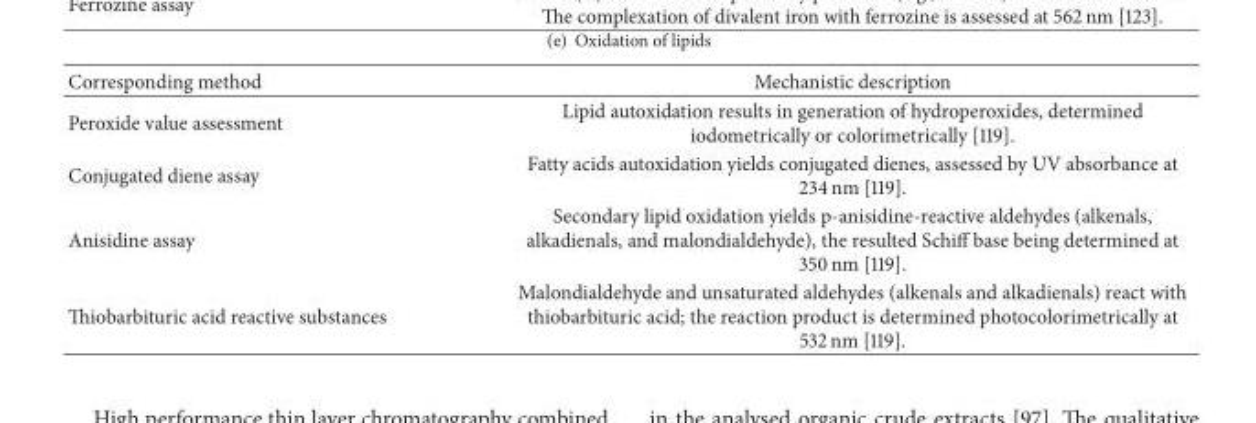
<table><thead><tr><td>Corresponding method</td><td>Mechanistic description</td></tr></thead><tbody><tr><td>Peroxide value assessment</td><td>Lipid autoxidation results in generation of hydroperoxides, determined iodometrically or colorimetrically [119].</td></tr><tr><td>Conjugated diene assay</td><td>Fatty acids autoxidation yields conjugated dienes, assessed by UV absorbance at 234 nm [119].</td></tr><tr><td>Anisidine assay</td><td>Secondary lipid oxidation yields p-anisidine-reactive aldehydes (alkenals, alkadienals, and malondialdehyde), the resulted Schiff base being determined at 350 nm [119].</td></tr><tr><td>Thiobarbituric acid reactive substances</td><td>Malondialdehyde and unsaturated aldehydes (alkenals and alkadienals) react with thiobarbituric acid; the reaction product is determined photocolorimetrically at 532 nm [119].</td></tr></tbody></table>